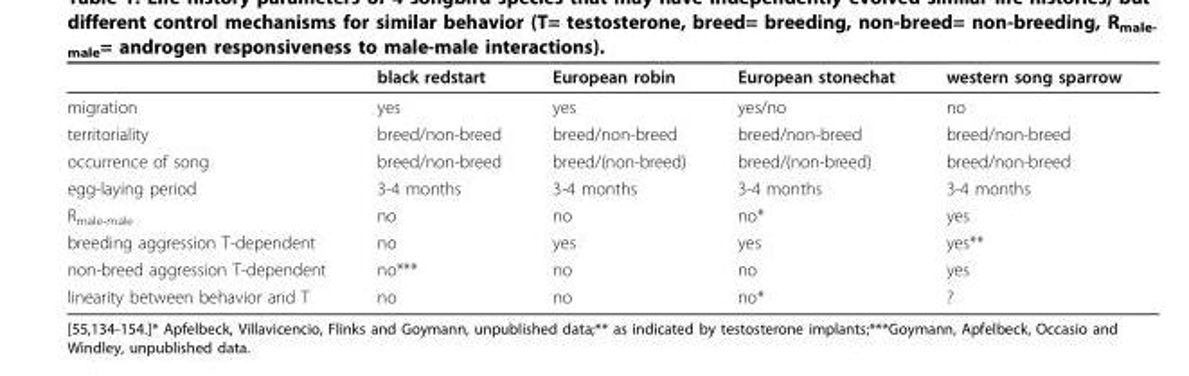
<table><thead><tr><td></td><td>black redstart</td><td>European robin</td><td>European stonechat</td><td>western song sparrow</td></tr></thead><tbody><tr><td>migration</td><td>yes</td><td>yes</td><td>yes/no</td><td>no</td></tr><tr><td>territoriality</td><td>breed/non-breed</td><td>breed/non-breed</td><td>breed/non-breed</td><td>breed/non-breed</td></tr><tr><td>occurrence of song</td><td>breed/non-breed</td><td>breed/(non-breed)</td><td>breed/(non-breed)</td><td>breed/non-breed</td></tr><tr><td>egg-laying period</td><td>3-4 months</td><td>3-4 months</td><td>3-4 months</td><td>3-4 months</td></tr><tr><td>R<sub>male-male</sub></td><td>no</td><td>no</td><td>no*</td><td>yes</td></tr><tr><td>breeding aggression T-dependent</td><td>no</td><td>yes</td><td>yes</td><td>yes**</td></tr><tr><td>non-breed aggression T-dependent</td><td>no***</td><td>no</td><td>no</td><td>yes</td></tr><tr><td>linearity between behavior and T</td><td>no</td><td>no</td><td>no*</td><td>?</td></tr></tbody></table>